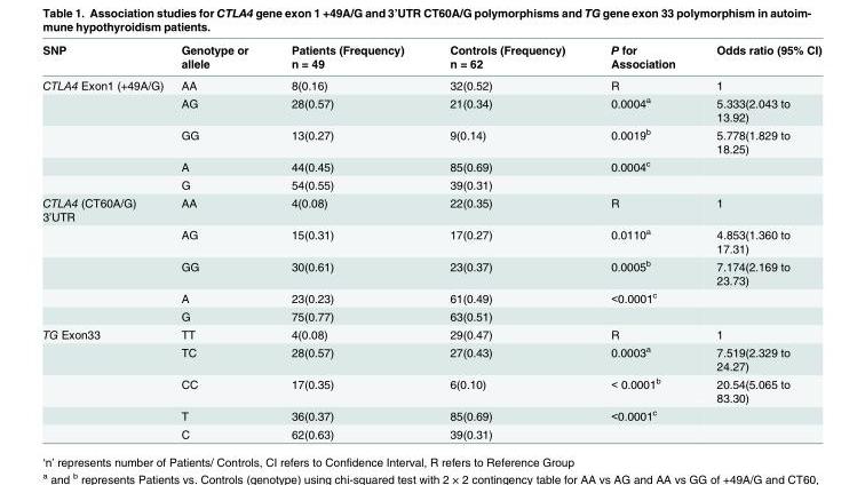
<table><thead><tr><td>SNP</td><td>Genotype or allele</td><td>Patients (Frequency) n = 49</td><td>Controls (Frequency) n = 62</td><td>P for Association</td><td>Odds ratio (95% CI)</td></tr></thead><tbody><tr><td rowspan="5">CTLA4 Exon1 (+49A/G)</td><td>AA</td><td>8(0.16)</td><td>32(0.52)</td><td>R</td><td>1</td></tr><tr><td>AG</td><td>28(0.57)</td><td>21(0.34)</td><td>0.0004<sup>a</sup></td><td>5.333(2.043 to 13.92)</td></tr><tr><td>GG</td><td>13(0.27)</td><td>9(0.14)</td><td>0.0019<sup>b</sup></td><td>5.778(1.829 to 18.25)</td></tr><tr><td>A</td><td>44(0.45)</td><td>85(0.69)</td><td>0.0004<sup>c</sup></td><td></td></tr><tr><td>G</td><td>54(0.55)</td><td>39(0.31)</td><td></td><td></td></tr><tr><td rowspan="5">CTLA4 (CT60A/G) 3’UTR</td><td>AA</td><td>4(0.08)</td><td>22(0.35)</td><td>R</td><td>1</td></tr><tr><td>AG</td><td>15(0.31)</td><td>17(0.27)</td><td>0.0110<sup>a</sup></td><td>4.853(1.360 to 17.31)</td></tr><tr><td>GG</td><td>30(0.61)</td><td>23(0.37)</td><td>0.0005<sup>b</sup></td><td>7.174(2.169 to 23.73)</td></tr><tr><td>A</td><td>23(0.23)</td><td>61(0.49)</td><td>&lt;0.0001<sup>c</sup></td><td></td></tr><tr><td>G</td><td>75(0.77)</td><td>63(0.51)</td><td></td><td></td></tr><tr><td rowspan="5">TG Exon33</td><td>TT</td><td>4(0.08)</td><td>29(0.47)</td><td>R</td><td>1</td></tr><tr><td>TC</td><td>28(0.57)</td><td>27(0.43)</td><td>0.0003<sup>a</sup></td><td>7.519(2.329 to 24.27)</td></tr><tr><td>CC</td><td>17(0.35)</td><td>6(0.10)</td><td>&lt; 0.0001<sup>b</sup></td><td>20.54(5.065 to 83.30)</td></tr><tr><td>T</td><td>36(0.37)</td><td>85(0.69)</td><td>&lt;0.0001<sup>c</sup></td><td></td></tr><tr><td>C</td><td>62(0.63)</td><td>39(0.31)</td><td></td><td></td></tr></tbody></table>